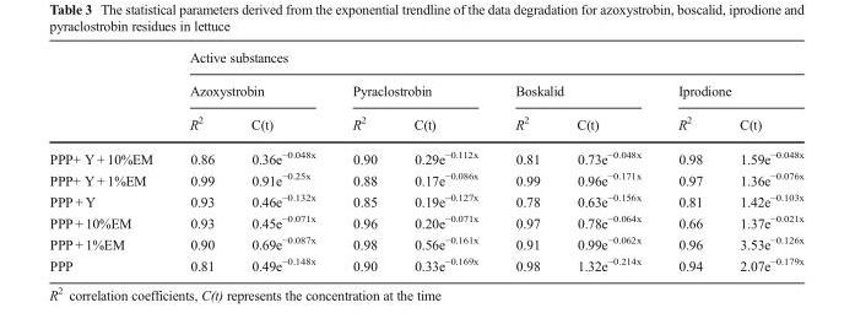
<table><thead><tr><td rowspan="3"></td><td colspan="8">Active substances</td></tr><tr><td colspan="2">Azoxystrobin</td><td colspan="2">Pyraclostrobin</td><td colspan="2">Boskalid</td><td colspan="2">Iprodione</td></tr><tr><td>R<sup>2</sup></td><td>C(t)</td><td>R<sup>2</sup></td><td>C(t)</td><td>R<sup>2</sup></td><td>C(t)</td><td>R<sup>2</sup></td><td>C(t)</td></tr></thead><tbody><tr><td>PPP+ Y + 10%EM</td><td>0.86</td><td>0.36e<sup>−0.048x</sup></td><td>0.90</td><td>0.29e<sup>−0.112x</sup></td><td>0.81</td><td>0.73e<sup>−0.048x</sup></td><td>0.98</td><td>1.59e<sup>−0.048x</sup></td></tr><tr><td>PPP+ Y + 1%EM</td><td>0.99</td><td>0.91e<sup>−0.25x</sup></td><td>0.88</td><td>0.17e<sup>−0.086x</sup></td><td>0.99</td><td>0.96e<sup>−0.171x</sup></td><td>0.97</td><td>1.36e<sup>−0.076x</sup></td></tr><tr><td>PPP + Y</td><td>0.93</td><td>0.46e<sup>−0.132x</sup></td><td>0.85</td><td>0.19e<sup>−0.127x</sup></td><td>0.78</td><td>0.63e<sup>−0.156x</sup></td><td>0.81</td><td>1.42e<sup>−0.103x</sup></td></tr><tr><td>PPP + 10%EM</td><td>0.93</td><td>0.45e<sup>−0.071x</sup></td><td>0.96</td><td>0.20e<sup>−0.071x</sup></td><td>0.97</td><td>0.78e<sup>−0.064x</sup></td><td>0.66</td><td>1.37e<sup>−0.021x</sup></td></tr><tr><td>PPP + 1%EM</td><td>0.90</td><td>0.69e<sup>−0.087x</sup></td><td>0.98</td><td>0.56e<sup>−0.161x</sup></td><td>0.91</td><td>0.99e<sup>−0.062x</sup></td><td>0.96</td><td>3.53e<sup>−0.126x</sup></td></tr><tr><td>PPP</td><td>0.81</td><td>0.49e<sup>−0.148x</sup></td><td>0.90</td><td>0.33e<sup>−0.169x</sup></td><td>0.98</td><td>1.32e<sup>−0.214x</sup></td><td>0.94</td><td>2.07e<sup>−0.179x</sup></td></tr></tbody></table>